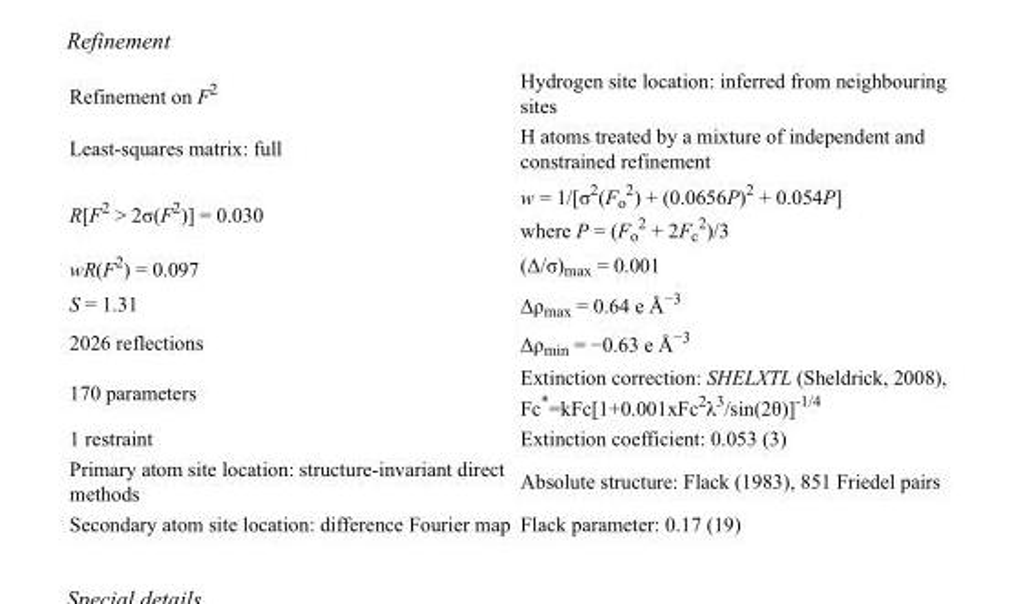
<table><tbody><tr><td>Refinement on F<sup>2</sup></td><td>Hydrogen site location: inferred from neighbouring sites</td></tr><tr><td>Least-squares matrix: full</td><td>H atoms treated by a mixture of independent and constrained refinement</td></tr><tr><td>R[F<sup>2</sup> &gt; 2σ(F<sup>2</sup>)] = 0.030</td><td>w = 1/[σ<sup>2</sup>(F<sub>o</sub> <sup>2</sup>) + (0.0656P)<sup>2</sup> + 0.054P] where P = (F<sub>o</sub> <sup>2</sup> + 2F<sub>c</sub> <sup>2</sup>)/3</td></tr><tr><td>wR(F<sup>2</sup>) = 0.097</td><td>(Δ/σ)<sub>max</sub> = 0.001</td></tr><tr><td>S = 1.31</td><td>Δρ<sub>max</sub> = 0.64 e Å<sup>−3</sup></td></tr><tr><td>2026 reflections</td><td>Δρ<sub>min</sub> = −0.63 e Å<sup>−3</sup></td></tr><tr><td>170 parameters</td><td>Extinction correction: SHELXTL (Sheldrick, 2008), Fc*=kFc[1+0.001xFc<sup>2</sup>λ<sup>3</sup>/sin(2θ)]<sup>-1/4</sup></td></tr><tr><td>1 restraint</td><td>Extinction coefficient: 0.053 (3)</td></tr><tr><td>Primary atom site location: structure-invariant direct methods</td><td>Absolute structure: Flack (1983), 851 Friedel pairs</td></tr><tr><td>Secondary atom site location: difference Fourier map</td><td>Flack parameter: 0.17 (19)</td></tr></tbody></table>